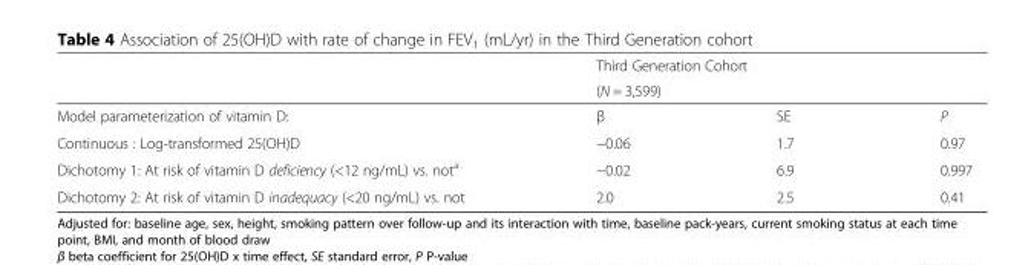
<table><thead><tr><td rowspan="3">Model parameterization of vitamin D:</td><td rowspan="2" colspan="3">Third Generation Cohort (N = 3,599)</td></tr><tr></tr><tr><td>β</td><td>SE</td><td>P</td></tr></thead><tbody><tr><td>Continuous : Log-transformed 25(OH)D</td><td>−0.06</td><td>1.7</td><td>0.97</td></tr><tr><td>Dichotomy 1: At risk of vitamin D deficiency (&lt;12 ng/mL) vs. not<sup>a</sup></td><td>−0.02</td><td>6.9</td><td>0.997</td></tr><tr><td>Dichotomy 2: At risk of vitamin D inadequacy (&lt;20 ng/mL) vs. not</td><td>2.0</td><td>2.5</td><td>0.41</td></tr></tbody></table>